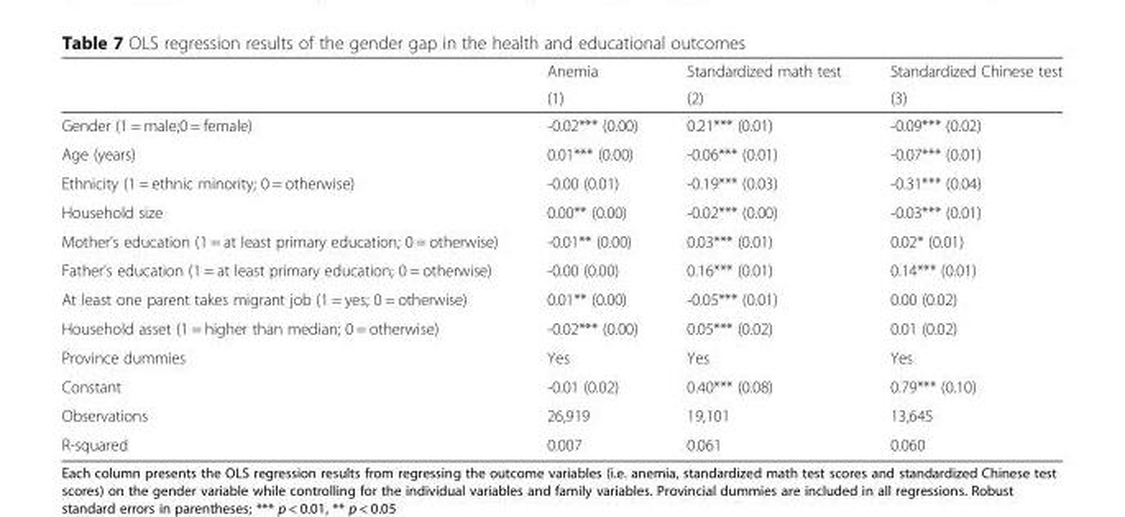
<table><thead><tr><td rowspan="2"></td><td rowspan="2">Anemia (1)</td><td rowspan="2">Standardized math test (2)</td><td rowspan="2">Standardized Chinese test (3)</td></tr><tr></tr></thead><tbody><tr><td>Gender (1 = male;0 = female)</td><td>-0.02*** (0.00)</td><td>0.21*** (0.01)</td><td>-0.09*** (0.02)</td></tr><tr><td>Age (years)</td><td>0.01*** (0.00)</td><td>-0.06*** (0.01)</td><td>-0.07*** (0.01)</td></tr><tr><td>Ethnicity (1 = ethnic minority; 0 = otherwise)</td><td>-0.00 (0.01)</td><td>-0.19*** (0.03)</td><td>-0.31*** (0.04)</td></tr><tr><td>Household size</td><td>0.00** (0.00)</td><td>-0.02*** (0.00)</td><td>-0.03*** (0.01)</td></tr><tr><td>Mother’s education (1 = at least primary education; 0 = otherwise)</td><td>-0.01** (0.00)</td><td>0.03*** (0.01)</td><td>0.02* (0.01)</td></tr><tr><td>Father’s education (1 = at least primary education; 0 = otherwise)</td><td>-0.00 (0.00)</td><td>0.16*** (0.01)</td><td>0.14*** (0.01)</td></tr><tr><td>At least one parent takes migrant job (1 = yes; 0 = otherwise)</td><td>0.01** (0.00)</td><td>-0.05*** (0.01)</td><td>0.00 (0.02)</td></tr><tr><td>Household asset (1 = higher than median; 0 = otherwise)</td><td>-0.02*** (0.00)</td><td>0.05*** (0.02)</td><td>0.01 (0.02)</td></tr><tr><td>Province dummies</td><td>Yes</td><td>Yes</td><td>Yes</td></tr><tr><td>Constant</td><td>-0.01 (0.02)</td><td>0.40*** (0.08)</td><td>0.79*** (0.10)</td></tr><tr><td>Observations</td><td>26,919</td><td>19,101</td><td>13,645</td></tr><tr><td>R-squared</td><td>0.007</td><td>0.061</td><td>0.060</td></tr></tbody></table>